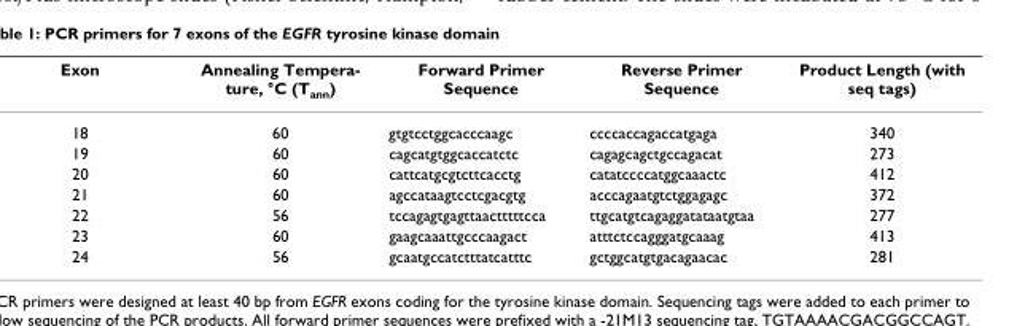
<table><thead><tr><td>Exon</td><td>Annealing Tempera- ture, °C (Tann)</td><td>Forward Primer Sequence</td><td>Reverse Primer Sequence</td><td>Product Length (with seq tags)</td></tr></thead><tbody><tr><td>18</td><td>60</td><td>gtgtcctggcacccaagc</td><td>ccccaccagaccatgaga</td><td>340</td></tr><tr><td>19</td><td>60</td><td>cagcatgtggcaccatctc</td><td>cagagcagctgccagacat</td><td>273</td></tr><tr><td>20</td><td>60</td><td>cattcatgcgtcttcacctg</td><td>catatccccatggcaaactc</td><td>412</td></tr><tr><td>21</td><td>60</td><td>agccataagtcctcgacgtg</td><td>acccagaatgtctggagagc</td><td>372</td></tr><tr><td>22</td><td>56</td><td>tccagagtgagttaactttttcca</td><td>ttgcatgtcagaggatataatgtaa</td><td>277</td></tr><tr><td>23</td><td>60</td><td>gaagcaaattgcccaagact</td><td>atttctccagggatgcaaag</td><td>413</td></tr><tr><td>24</td><td>56</td><td>gcaatgccatctttatcatttc</td><td>gctggcatgtgacagaacac</td><td>281</td></tr></tbody></table>